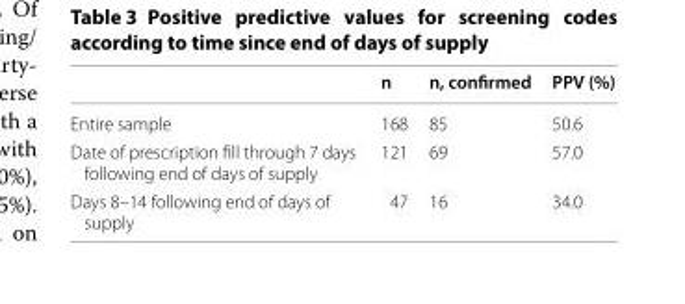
<table><thead><tr><td></td><td>n</td><td>n, confirmed</td><td>PPV (%)</td></tr></thead><tbody><tr><td>Entire sample</td><td>168</td><td>85</td><td>50.6</td></tr><tr><td>Date of prescription fill through 7 days following end of days of supply</td><td>121</td><td>69</td><td>57.0</td></tr><tr><td>Days 8–14 following end of days of supply</td><td>47</td><td>16</td><td>34.0</td></tr></tbody></table>